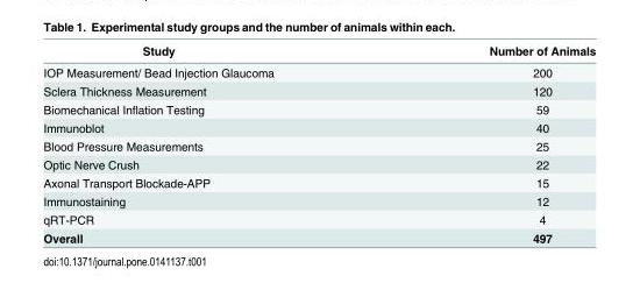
<table><thead><tr><td>Study</td><td>Number of Animals</td></tr></thead><tbody><tr><td>IOP Measurement/ Bead Injection Glaucoma</td><td>200</td></tr><tr><td>Sclera Thickness Measurement</td><td>120</td></tr><tr><td>Biomechanical Inflation Testing</td><td>59</td></tr><tr><td>Immunoblot</td><td>40</td></tr><tr><td>Blood Pressure Measurements</td><td>25</td></tr><tr><td>Optic Nerve Crush</td><td>22</td></tr><tr><td>Axonal Transport Blockade-APP</td><td>15</td></tr><tr><td>Immunostaining</td><td>12</td></tr><tr><td>qRT-PCR</td><td>4</td></tr><tr><td>Overall</td><td>497</td></tr></tbody></table>